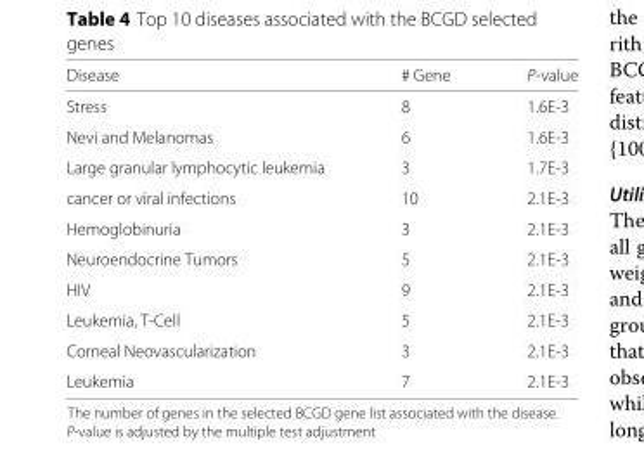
<table><thead><tr><td>Disease</td><td># Gene</td><td>P-value</td></tr></thead><tbody><tr><td>Stress</td><td>8</td><td>1.6E-3</td></tr><tr><td>Nevi and Melanomas</td><td>6</td><td>1.6E-3</td></tr><tr><td>Large granular lymphocytic leukemia</td><td>3</td><td>1.7E-3</td></tr><tr><td>cancer or viral infections</td><td>10</td><td>2.1E-3</td></tr><tr><td>Hemoglobinuria</td><td>3</td><td>2.1E-3</td></tr><tr><td>Neuroendocrine Tumors</td><td>5</td><td>2.1E-3</td></tr><tr><td>HIV</td><td>9</td><td>2.1E-3</td></tr><tr><td>Leukemia, T-Cell</td><td>5</td><td>2.1E-3</td></tr><tr><td>Corneal Neovascularization</td><td>3</td><td>2.1E-3</td></tr><tr><td>Leukemia</td><td>7</td><td>2.1E-3</td></tr></tbody></table>